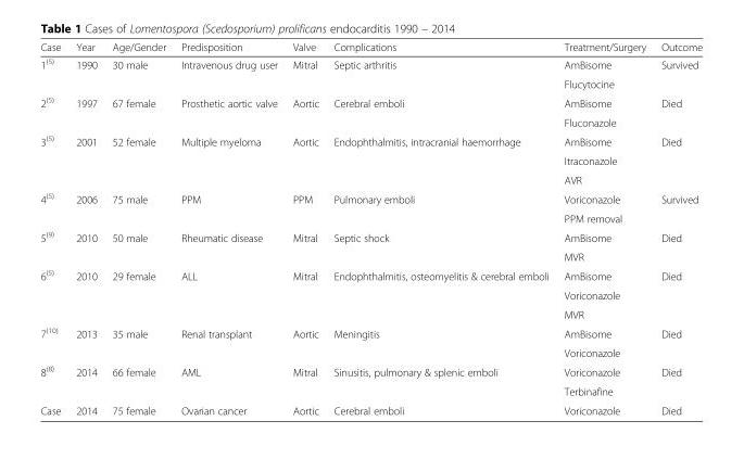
<table><thead><tr><td>Case</td><td>Year</td><td>Age/Gender</td><td>Predisposition</td><td>Valve</td><td>Complications</td><td>Treatment/Surgery</td><td>Outcome</td></tr></thead><tbody><tr><td rowspan="2">1<sup>(5)</sup></td><td rowspan="2">1990</td><td rowspan="2">30 male</td><td rowspan="2">Intravenous drug user</td><td rowspan="2">Mitral</td><td rowspan="2">Septic arthritis</td><td>AmBisome</td><td rowspan="2">Survived</td></tr><tr><td>Flucytocine</td></tr><tr><td rowspan="2">2<sup>(5)</sup></td><td rowspan="2">1997</td><td rowspan="2">67 female</td><td rowspan="2">Prosthetic aortic valve</td><td rowspan="2">Aortic</td><td rowspan="2">Cerebral emboli</td><td>AmBisome</td><td rowspan="2">Died</td></tr><tr><td>Fluconazole</td></tr><tr><td rowspan="3">3<sup>(5)</sup></td><td rowspan="3">2001</td><td rowspan="3">52 female</td><td rowspan="3">Multiple myeloma</td><td rowspan="3">Aortic</td><td rowspan="3">Endophthalmitis, intracranial haemorrhage</td><td>AmBisome</td><td rowspan="3">Died</td></tr><tr><td>Itraconazole</td></tr><tr><td>AVR</td></tr><tr><td rowspan="2">4<sup>(5)</sup></td><td rowspan="2">2006</td><td rowspan="2">75 male</td><td rowspan="2">PPM</td><td rowspan="2">PPM</td><td rowspan="2">Pulmonary emboli</td><td>Voriconazole</td><td rowspan="2">Survived</td></tr><tr><td>PPM removal</td></tr><tr><td rowspan="2">5<sup>(9)</sup></td><td rowspan="2">2010</td><td rowspan="2">50 male</td><td rowspan="2">Rheumatic disease</td><td rowspan="2">Mitral</td><td rowspan="2">Septic shock</td><td>AmBisome</td><td rowspan="2">Died</td></tr><tr><td>MVR</td></tr><tr><td rowspan="3">6<sup>(5)</sup></td><td rowspan="3">2010</td><td rowspan="3">29 female</td><td rowspan="3">ALL</td><td rowspan="3">Mitral</td><td rowspan="3">Endophthalmitis, osteomyelitis &amp; cerebral emboli</td><td>AmBisome</td><td rowspan="3">Died</td></tr><tr><td>Voriconazole</td></tr><tr><td>MVR</td></tr><tr><td rowspan="2">7<sup>(10)</sup></td><td rowspan="2">2013</td><td rowspan="2">35 male</td><td rowspan="2">Renal transplant</td><td rowspan="2">Aortic</td><td rowspan="2">Meningitis</td><td>AmBisome</td><td rowspan="2">Died</td></tr><tr><td>Voriconazole</td></tr><tr><td rowspan="2">8<sup>(8)</sup></td><td rowspan="2">2014</td><td rowspan="2">66 female</td><td rowspan="2">AML</td><td rowspan="2">Mitral</td><td rowspan="2">Sinusitis, pulmonary &amp; splenic emboli</td><td>Voriconazole</td><td rowspan="2">Died</td></tr><tr><td>Terbinafine</td></tr><tr><td>Case</td><td>2014</td><td>75 female</td><td>Ovarian cancer</td><td>Aortic</td><td>Cerebral emboli</td><td>Voriconazole</td><td>Died</td></tr></tbody></table>